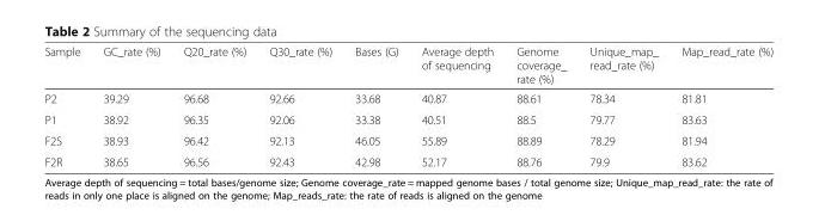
<table><thead><tr><td>Sample</td><td>GC_rate (%)</td><td>Q20_rate (%)</td><td>Q30_rate (%)</td><td>Bases (G)</td><td>Average depth of sequencing</td><td>Genome coverage_ rate (%)</td><td>Unique_map_ read_rate (%)</td><td>Map_read_rate (%)</td></tr></thead><tbody><tr><td>P2</td><td>39.29</td><td>96.68</td><td>92.66</td><td>33.68</td><td>40.87</td><td>88.61</td><td>78.34</td><td>81.81</td></tr><tr><td>P1</td><td>38.92</td><td>96.35</td><td>92.06</td><td>33.38</td><td>40.51</td><td>88.5</td><td>79.77</td><td>83.63</td></tr><tr><td>F2S</td><td>38.93</td><td>96.42</td><td>92.13</td><td>46.05</td><td>55.89</td><td>88.89</td><td>78.29</td><td>81.94</td></tr><tr><td>F2R</td><td>38.65</td><td>96.56</td><td>92.43</td><td>42.98</td><td>52.17</td><td>88.76</td><td>79.9</td><td>83.62</td></tr></tbody></table>